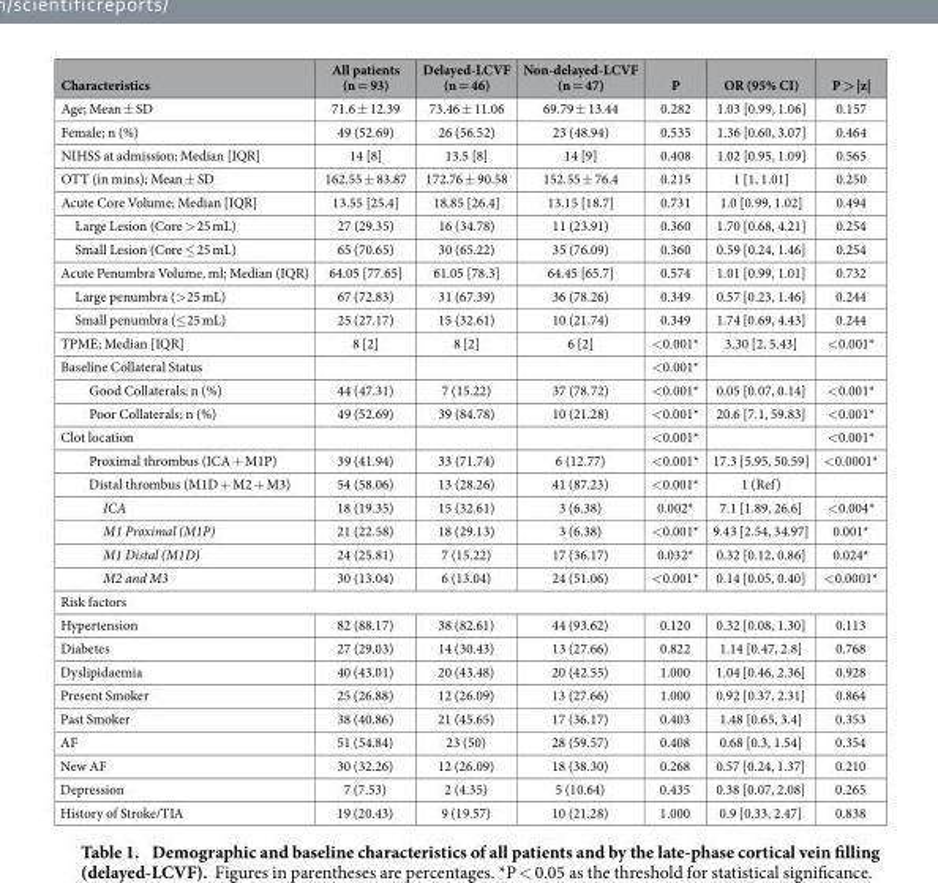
<table><thead><tr><td>Characteristics</td><td>All patients (n = 93)</td><td>Delayed-LCVF (n = 46)</td><td>Non-delayed-LCVF (n = 47)</td><td>P</td><td>OR (95% CI)</td><td>P &gt; |z|</td></tr></thead><tbody><tr><td>Age; Mean ± SD</td><td>71.6 ± 12.39</td><td>73.46 ± 11.06</td><td>69.79 ± 13.44</td><td>0.282</td><td>1.03 [0.99, 1.06]</td><td>0.157</td></tr><tr><td>Female; n (%)</td><td>49 (52.69)</td><td>26 (56.52)</td><td>23 (48.94)</td><td>0.535</td><td>1.36 [0.60, 3.07]</td><td>0.464</td></tr><tr><td>NIHSS at admission; Median [IQR]</td><td>14 [8]</td><td>13.5 [8]</td><td>14 [9]</td><td>0.408</td><td>1.02 [0.95, 1.09]</td><td>0.565</td></tr><tr><td>OTT (in mins); Mean ± SD</td><td>162.55 ± 83.87</td><td>172.76 ± 90.58</td><td>152.55 ± 76.4</td><td>0.215</td><td>1 [1, 1.01]</td><td>0.250</td></tr><tr><td>Acute Core Volume; Median [IQR]</td><td>13.55 [25.4]</td><td>18.85 [26.4]</td><td>13.15 [18.7]</td><td>0.731</td><td>1.0 [0.99, 1.02]</td><td>0.494</td></tr><tr><td>Large Lesion (Core &gt; 25 mL)</td><td>27 (29.35)</td><td>16 (34.78)</td><td>11 (23.91)</td><td>0.360</td><td>1.70 [0.68, 4.21]</td><td>0.254</td></tr><tr><td>Small Lesion (Core ≤ 25 mL)</td><td>65 (70.65)</td><td>30 (65.22)</td><td>35 (76.09)</td><td>0.360</td><td>0.59 [0.24, 1.46]</td><td>0.254</td></tr><tr><td>Acute Penumbra Volume, ml; Median (IQR)</td><td>64.05 [77.65]</td><td>61.05 [78.3]</td><td>64.45 [65.7]</td><td>0.574</td><td>1.01 [0.99, 1.01]</td><td>0.732</td></tr><tr><td>Large penumbra (&gt; 25 mL)</td><td>67 (72.83)</td><td>31 (67.39)</td><td>36 (78.26)</td><td>0.349</td><td>0.57 [0.23, 1.46]</td><td>0.244</td></tr><tr><td>Small penumbra (≤ 25 mL)</td><td>25 (27.17)</td><td>15 (32.61)</td><td>10 (21.74)</td><td>0.349</td><td>1.74 [0.69, 4.43]</td><td>0.244</td></tr><tr><td>TPME; Median [IQR]</td><td>8 [2]</td><td>8 [2]</td><td>6 [2]</td><td>&lt; 0.001*</td><td>3.30 [2, 5.43]</td><td>&lt; 0.001*</td></tr><tr><td>Baseline Collateral Status</td><td></td><td></td><td></td><td>&lt; 0.001*</td><td></td><td></td></tr><tr><td>Good Collaterals; n (%)</td><td>44 (47.31)</td><td>7 (15.22)</td><td>37 (78.72)</td><td>&lt; 0.001*</td><td>0.05 [0.07, 0.14]</td><td>&lt; 0.001*</td></tr><tr><td>Poor Collaterals; n (%)</td><td>49 (52.69)</td><td>39 (84.78)</td><td>10 (21.28)</td><td>&lt; 0.001*</td><td>20.6 [7.1, 59.83]</td><td>&lt; 0.001*</td></tr><tr><td>Clot location</td><td></td><td></td><td></td><td>&lt; 0.001*</td><td></td><td>&lt; 0.001*</td></tr><tr><td>Proximal thrombus (ICA + M1P)</td><td>39 (41.94)</td><td>33 (71.74)</td><td>6 (12.77)</td><td>&lt; 0.001*</td><td>17.3 [5.95, 50.59]</td><td>&lt; 0.0001*</td></tr><tr><td>Distal thrombus (M1D + M2 + M3)</td><td>54 (58.06)</td><td>13 (28.26)</td><td>41 (87.23)</td><td>&lt; 0.001*</td><td>1 (Ref)</td><td></td></tr><tr><td>ICA</td><td>18 (19.35)</td><td>15 (32.61)</td><td>3 (6.38)</td><td>0.002*</td><td>7.1 [1.89, 26.6]</td><td>&lt; 0.004*</td></tr><tr><td>M1 Proximal (M1P)</td><td>21 (22.58)</td><td>18 (29.13)</td><td>3 (6.38)</td><td>&lt; 0.001*</td><td>9.43 [2.54, 34.97]</td><td>0.001*</td></tr><tr><td>M1 Distal (M1D)</td><td>24 (25.81)</td><td>7 (15.22)</td><td>17 (36.17)</td><td>0.032*</td><td>0.32 [0.12, 0.86]</td><td>0.024*</td></tr><tr><td>M2 and M3</td><td>30 (13.04)</td><td>6 (13.04)</td><td>24 (51.06)</td><td>&lt; 0.001*</td><td>0.14 [0.05, 0.40]</td><td>&lt; 0.0001*</td></tr><tr><td colspan="7">Risk factors</td></tr><tr><td>Hypertension</td><td>82 (88.17)</td><td>38 (82.61)</td><td>44 (93.62)</td><td>0.120</td><td>0.32 [0.08, 1.30]</td><td>0.113</td></tr><tr><td>Diabetes</td><td>27 (29.03)</td><td>14 (30.43)</td><td>13 (27.66)</td><td>0.822</td><td>1.14 [0.47, 2.8]</td><td>0.768</td></tr><tr><td>Dyslipidaemia</td><td>40 (43.01)</td><td>20 (43.48)</td><td>20 (42.55)</td><td>1.000</td><td>1.04 [0.46, 2.36]</td><td>0.928</td></tr><tr><td>Present Smoker</td><td>25 (26.88)</td><td>12 (26.09)</td><td>13 (27.66)</td><td>1.000</td><td>0.92 [0.37, 2.31]</td><td>0.864</td></tr><tr><td>Past Smoker</td><td>38 (40.86)</td><td>21 (45.65)</td><td>17 (36.17)</td><td>0.403</td><td>1.48 [0.65, 3.4]</td><td>0.353</td></tr><tr><td>AF</td><td>51 (54.84)</td><td>23 (50)</td><td>28 (59.57)</td><td>0.408</td><td>0.68 [0.3, 1.54]</td><td>0.354</td></tr><tr><td>New AF</td><td>30 (32.26)</td><td>12 (26.09)</td><td>18 (38.30)</td><td>0.268</td><td>0.57 [0.24, 1.37]</td><td>0.210</td></tr><tr><td>Depression</td><td>7 (7.53)</td><td>2 (4.35)</td><td>5 (10.64)</td><td>0.435</td><td>0.38 [0.07, 2.08]</td><td>0.265</td></tr><tr><td>History of Stroke/TIA</td><td>19 (20.43)</td><td>9 (19.57)</td><td>10 (21.28)</td><td>1.000</td><td>0.9 [0.33, 2.47]</td><td>0.838</td></tr></tbody></table>